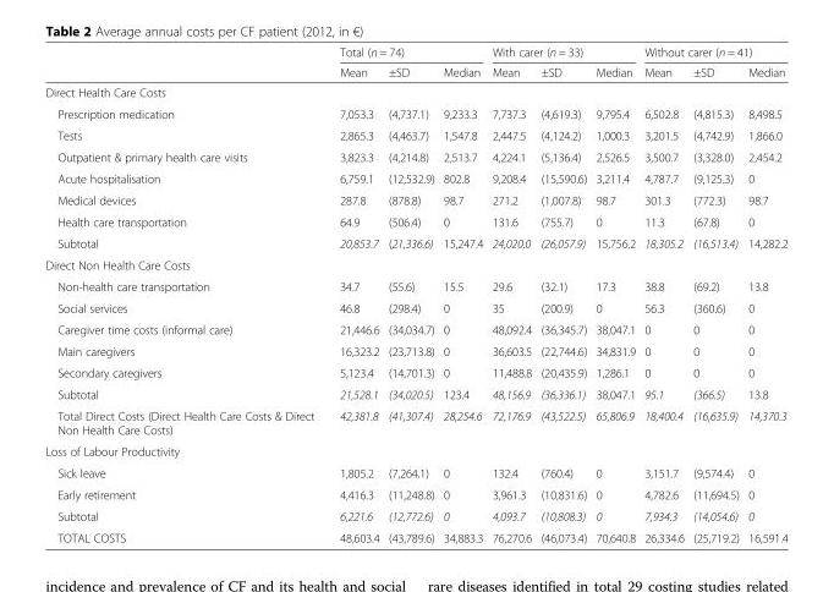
<table><thead><tr><td rowspan="2"></td><td colspan="3">Total (n = 74)</td><td colspan="3">With carer (n = 33)</td><td colspan="3">Without carer (n = 41)</td></tr><tr><td>Mean</td><td>±SD</td><td>Median</td><td>Mean</td><td>±SD</td><td>Median</td><td>Mean</td><td>±SD</td><td>Median</td></tr></thead><tbody><tr><td colspan="10">Direct Health Care Costs</td></tr><tr><td>Prescription medication</td><td>7,053.3</td><td>(4,737.1)</td><td>9,233.3</td><td>7,737.3</td><td>(4,619.3)</td><td>9,795.4</td><td>6,502.8</td><td>(4,815.3)</td><td>8,498.5</td></tr><tr><td>Tests</td><td>2,865.3</td><td>(4,463.7)</td><td>1,547.8</td><td>2,447.5</td><td>(4,124.2)</td><td>1,000.3</td><td>3,201.5</td><td>(4,742.9)</td><td>1,866.0</td></tr><tr><td>Outpatient &amp; primary health care visits</td><td>3,823.3</td><td>(4,214.8)</td><td>2,513.7</td><td>4,224.1</td><td>(5,136.4)</td><td>2,526.5</td><td>3,500.7</td><td>(3,328.0)</td><td>2,454.2</td></tr><tr><td>Acute hospitalisation</td><td>6,759.1</td><td>(12,532.9)</td><td>802.8</td><td>9,208.4</td><td>(15,590.6)</td><td>3,211.4</td><td>4,787.7</td><td>(9,125.3)</td><td>0</td></tr><tr><td>Medical devices</td><td>287.8</td><td>(878.8)</td><td>98.7</td><td>271.2</td><td>(1,007.8)</td><td>98.7</td><td>301.3</td><td>(772.3)</td><td>98.7</td></tr><tr><td>Health care transportation</td><td>64.9</td><td>(506.4)</td><td>0</td><td>131.6</td><td>(755.7)</td><td>0</td><td>11.3</td><td>(67.8)</td><td>0</td></tr><tr><td>Subtotal</td><td>20,853.7</td><td>(21,336.6)</td><td>15,247.4</td><td>24,020.0</td><td>(26,057.9)</td><td>15,756.2</td><td>18,305.2</td><td>(16,513.4)</td><td>14,282.2</td></tr><tr><td colspan="10">Direct Non Health Care Costs</td></tr><tr><td>Non-health care transportation</td><td>34.7</td><td>(55.6)</td><td>15.5</td><td>29.6</td><td>(32.1)</td><td>17.3</td><td>38.8</td><td>(69.2)</td><td>13.8</td></tr><tr><td>Social services</td><td>46.8</td><td>(298.4)</td><td>0</td><td>35</td><td>(200.9)</td><td>0</td><td>56.3</td><td>(360.6)</td><td>0</td></tr><tr><td>Caregiver time costs (informal care)</td><td>21,446.6</td><td>(34,034.7)</td><td>0</td><td>48,092.4</td><td>(36,345.7)</td><td>38,047.1</td><td>0</td><td>0</td><td>0</td></tr><tr><td>Main caregivers</td><td>16,323.2</td><td>(23,713.8)</td><td>0</td><td>36,603.5</td><td>(22,744.6)</td><td>34,831.9</td><td>0</td><td>0</td><td>0</td></tr><tr><td>Secondary caregivers</td><td>5,123.4</td><td>(14,701.3)</td><td>0</td><td>11,488.8</td><td>(20,435.9)</td><td>1,286.1</td><td>0</td><td>0</td><td>0</td></tr><tr><td>Subtotal</td><td>21,528.1</td><td>(34,020.5)</td><td>123.4</td><td>48,156.9</td><td>(36,336.1)</td><td>38,047.1</td><td>95.1</td><td>(366.5)</td><td>13.8</td></tr><tr><td>Total Direct Costs (Direct Health Care Costs &amp; Direct Non Health Care Costs)</td><td>42,381.8</td><td>(41,307.4)</td><td>28,254.6</td><td>72,176.9</td><td>(43,522.5)</td><td>65,806.9</td><td>18,400.4</td><td>(16,635.9)</td><td>14,370.3</td></tr><tr><td colspan="10">Loss of Labour Productivity</td></tr><tr><td>Sick leave</td><td>1,805.2</td><td>(7,264.1)</td><td>0</td><td>132.4</td><td>(760.4)</td><td>0</td><td>3,151.7</td><td>(9,574.4)</td><td>0</td></tr><tr><td>Early retirement</td><td>4,416.3</td><td>(11,248.8)</td><td>0</td><td>3,961.3</td><td>(10,831.6)</td><td>0</td><td>4,782.6</td><td>(11,694.5)</td><td>0</td></tr><tr><td>Subtotal</td><td>6,221.6</td><td>(12,772.6)</td><td>0</td><td>4,093.7</td><td>(10,808.3)</td><td>0</td><td>7,934.3</td><td>(14,054.6)</td><td>0</td></tr><tr><td>TOTAL COSTS</td><td>48,603.4</td><td>(43,789.6)</td><td>34,883.3</td><td>76,270.6</td><td>(46,073.4)</td><td>70,640.8</td><td>26,334.6</td><td>(25,719.2)</td><td>16,591.4</td></tr></tbody></table>